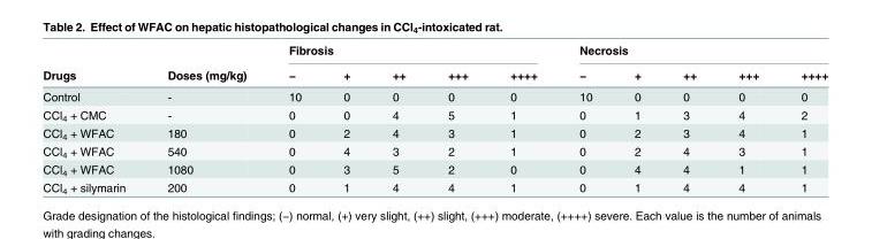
<table><thead><tr><td rowspan="2">Drugs</td><td rowspan="2">Doses (mg/kg)</td><td colspan="5">Fibrosis</td><td colspan="5">Necrosis</td></tr><tr><td>−</td><td>+</td><td>++</td><td>+++</td><td>++++</td><td>−</td><td>+</td><td>++</td><td>+++</td><td>++++</td></tr></thead><tbody><tr><td>Control</td><td>-</td><td>10</td><td>0</td><td>0</td><td>0</td><td>0</td><td>10</td><td>0</td><td>0</td><td>0</td><td>0</td></tr><tr><td>CCl<sub>4</sub> + CMC</td><td>-</td><td>0</td><td>0</td><td>4</td><td>5</td><td>1</td><td>0</td><td>1</td><td>3</td><td>4</td><td>2</td></tr><tr><td>CCl<sub>4</sub> + WFAC</td><td>180</td><td>0</td><td>2</td><td>4</td><td>3</td><td>1</td><td>0</td><td>2</td><td>3</td><td>4</td><td>1</td></tr><tr><td>CCl<sub>4</sub> + WFAC</td><td>540</td><td>0</td><td>4</td><td>3</td><td>2</td><td>1</td><td>0</td><td>2</td><td>4</td><td>3</td><td>1</td></tr><tr><td>CCl<sub>4</sub> + WFAC</td><td>1080</td><td>0</td><td>3</td><td>5</td><td>2</td><td>0</td><td>0</td><td>4</td><td>4</td><td>1</td><td>1</td></tr><tr><td>CCl<sub>4</sub> + silymarin</td><td>200</td><td>0</td><td>1</td><td>4</td><td>4</td><td>1</td><td>0</td><td>1</td><td>4</td><td>4</td><td>1</td></tr></tbody></table>